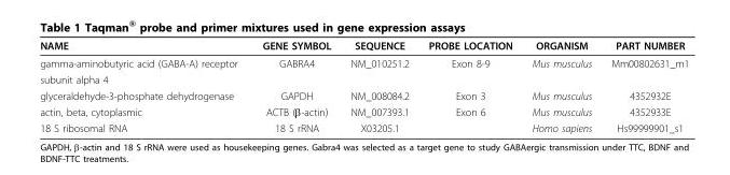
<table><thead><tr><td>NAME</td><td>GENE SYMBOL</td><td>SEQUENCE</td><td>PROBE LOCATION</td><td>ORGANISM</td><td>PART NUMBER</td></tr></thead><tbody><tr><td>gamma-aminobutyric acid (GABA-A) receptor</td><td>GABRA4</td><td>NM_010251.2</td><td>Exon 8-9</td><td>Mus musculus</td><td>Mm00802631_m1</td></tr><tr><td colspan="6">subunit alpha 4</td></tr><tr><td>glyceraldehyde-3-phosphate dehydrogenase</td><td>GAPDH</td><td>NM_008084.2</td><td>Exon 3</td><td>Mus musculus</td><td>4352932E</td></tr><tr><td>actin, beta, cytoplasmic</td><td>ACTB (β-actin)</td><td>NM_007393.1</td><td>Exon 6</td><td>Mus musculus</td><td>4352933E</td></tr><tr><td>18 S ribosomal RNA</td><td>18 S rRNA</td><td>X03205.1</td><td></td><td>Homo sapiens</td><td>Hs99999901_s1</td></tr></tbody></table>